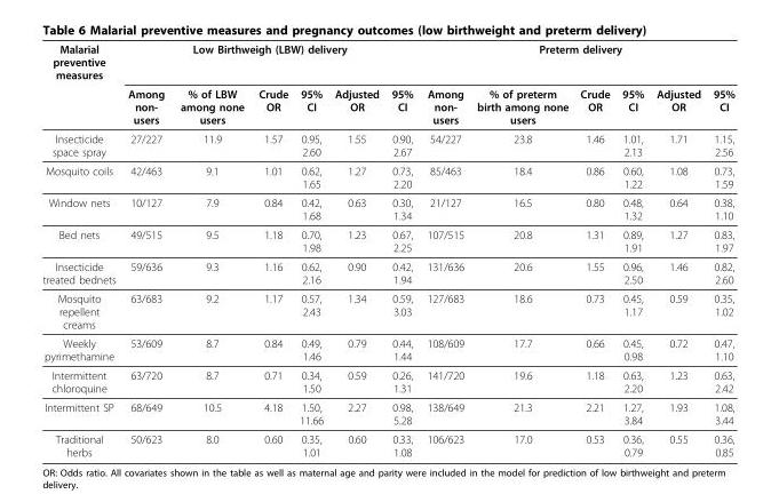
<table><thead><tr><td rowspan="2">Malarial preventive measures</td><td colspan="6">Low Birthweigh (LBW) delivery</td><td colspan="6">Preterm delivery</td></tr><tr><td>Among non- users</td><td>% of LBW among none users</td><td>Crude OR</td><td>95% CI</td><td>Adjusted OR</td><td>95% CI</td><td>Among non- users</td><td>% of preterm birth among none users</td><td>Crude OR</td><td>95% CI</td><td>Adjusted OR</td><td>95% CI</td></tr></thead><tbody><tr><td>Insecticide space spray</td><td>27/227</td><td>11.9</td><td>1.57</td><td>0.95, 2.60</td><td>1.55</td><td>0.90, 2.67</td><td>54/227</td><td>23.8</td><td>1.46</td><td>1.01, 2.13</td><td>1.71</td><td>1.15, 2.56</td></tr><tr><td>Mosquito coils</td><td>42/463</td><td>9.1</td><td>1.01</td><td>0.62, 1.65</td><td>1.27</td><td>0.73, 2.20</td><td>85/463</td><td>18.4</td><td>0.86</td><td>0.60, 1.22</td><td>1.08</td><td>0.73, 1.59</td></tr><tr><td>Window nets</td><td>10/127</td><td>7.9</td><td>0.84</td><td>0.42, 1.68</td><td>0.63</td><td>0.30, 1.34</td><td>21/127</td><td>16.5</td><td>0.80</td><td>0.48, 1.32</td><td>0.64</td><td>0.38, 1.10</td></tr><tr><td>Bed nets</td><td>49/515</td><td>9.5</td><td>1.18</td><td>0.70, 1.98</td><td>1.23</td><td>0.67, 2.25</td><td>107/515</td><td>20.8</td><td>1.31</td><td>0.89, 1.91</td><td>1.27</td><td>0.83, 1.97</td></tr><tr><td>Insecticide treated bednets</td><td>59/636</td><td>9.3</td><td>1.16</td><td>0.62, 2.16</td><td>0.90</td><td>0.42, 1.94</td><td>131/636</td><td>20.6</td><td>1.55</td><td>0.96, 2.50</td><td>1.46</td><td>0.82, 2.60</td></tr><tr><td>Mosquito repellent creams</td><td>63/683</td><td>9.2</td><td>1.17</td><td>0.57, 2.43</td><td>1.34</td><td>0.59, 3.03</td><td>127/683</td><td>18.6</td><td>0.73</td><td>0.45, 1.17</td><td>0.59</td><td>0.35, 1.02</td></tr><tr><td>Weekly pyrimethamine</td><td>53/609</td><td>8.7</td><td>0.84</td><td>0.49, 1.46</td><td>0.79</td><td>0.44, 1.44</td><td>108/609</td><td>17.7</td><td>0.66</td><td>0.45, 0.98</td><td>0.72</td><td>0.47, 1.10</td></tr><tr><td>Intermittent chloroquine</td><td>63/720</td><td>8.7</td><td>0.71</td><td>0.34, 1.50</td><td>0.59</td><td>0.26, 1.31</td><td>141/720</td><td>19.6</td><td>1.18</td><td>0.63, 2.20</td><td>1.23</td><td>0.63, 2.42</td></tr><tr><td>Intermittent SP</td><td>68/649</td><td>10.5</td><td>4.18</td><td>1.50, 11.66</td><td>2.27</td><td>0.98, 5.28</td><td>138/649</td><td>21.3</td><td>2.21</td><td>1.27, 3.84</td><td>1.93</td><td>1.08, 3.44</td></tr><tr><td>Traditional herbs</td><td>50/623</td><td>8.0</td><td>0.60</td><td>0.35, 1.01</td><td>0.60</td><td>0.33, 1.08</td><td>106/623</td><td>17.0</td><td>0.53</td><td>0.36, 0.79</td><td>0.55</td><td>0.36, 0.85</td></tr></tbody></table>